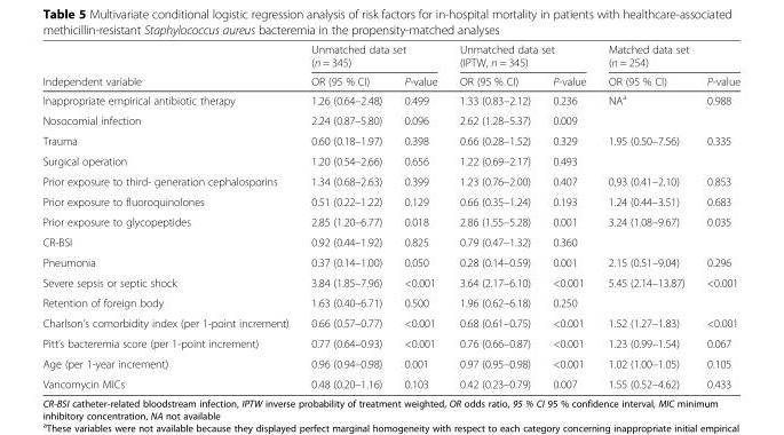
<table><thead><tr><td rowspan="2">Independent variable</td><td colspan="2">Unmatched data set (n = 345)</td><td colspan="2">Unmatched data set (IPTW, n = 345)</td><td colspan="2">Matched data set (n = 254)</td></tr><tr><td>OR (95 % CI)</td><td>P-value</td><td>OR (95 % CI)</td><td>P-value</td><td>OR (95 % CI)</td><td>P-value</td></tr></thead><tbody><tr><td>Inappropriate empirical antibiotic therapy</td><td>1.26 (0.64–2.48)</td><td>0.499</td><td>1.33 (0.83–2.12)</td><td>0.236</td><td>NA<sup>a</sup></td><td>0.988</td></tr><tr><td>Nosocomial infection</td><td>2.24 (0.87–5.80)</td><td>0.096</td><td>2.62 (1.28–5.37)</td><td>0.009</td><td></td><td></td></tr><tr><td>Trauma</td><td>0.60 (0.18–1.97)</td><td>0.398</td><td>0.66 (0.28–1.52)</td><td>0.329</td><td>1.95 (0.50–7.56)</td><td>0.335</td></tr><tr><td>Surgical operation</td><td>1.20 (0.54–2.66)</td><td>0.656</td><td>1.22 (0.69–2.17)</td><td>0.493</td><td></td><td></td></tr><tr><td>Prior exposure to third- generation cephalosporins</td><td>1.34 (0.68–2.63)</td><td>0.399</td><td>1.23 (0.76–2.00)</td><td>0.407</td><td>0.93 (0.41–2.10)</td><td>0.853</td></tr><tr><td>Prior exposure to fluoroquinolones</td><td>0.51 (0.22–1.22)</td><td>0.129</td><td>0.66 (0.35–1.24)</td><td>0.193</td><td>1.24 (0.44–3.51)</td><td>0.683</td></tr><tr><td>Prior exposure to glycopeptides</td><td>2.85 (1.20–6.77)</td><td>0.018</td><td>2.86 (1.55–5.28)</td><td>0.001</td><td>3.24 (1.08–9.67)</td><td>0.035</td></tr><tr><td>CR-BSI</td><td>0.92 (0.44–1.92)</td><td>0.825</td><td>0.79 (0.47–1.32)</td><td>0.360</td><td></td><td></td></tr><tr><td>Pneumonia</td><td>0.37 (0.14–1.00)</td><td>0.050</td><td>0.28 (0.14–0.59)</td><td>0.001</td><td>2.15 (0.51–9.04)</td><td>0.296</td></tr><tr><td>Severe sepsis or septic shock</td><td>3.84 (1.85–7.96)</td><td>&lt;0.001</td><td>3.64 (2.17–6.10)</td><td>&lt;0.001</td><td>5.45 (2.14–13.87)</td><td>&lt;0.001</td></tr><tr><td>Retention of foreign body</td><td>1.63 (0.40–6.71)</td><td>0.500</td><td>1.96 (0.62–6.18)</td><td>0.250</td><td></td><td></td></tr><tr><td>Charlson’s comorbidity index (per 1-point increment)</td><td>0.66 (0.57–0.77)</td><td>&lt;0.001</td><td>0.68 (0.61–0.75)</td><td>&lt;0.001</td><td>1.52 (1.27–1.83)</td><td>&lt;0.001</td></tr><tr><td>Pitt’s bacteremia score (per 1-point increment)</td><td>0.77 (0.64–0.93)</td><td>&lt;0.001</td><td>0.76 (0.66–0.87)</td><td>&lt;0.001</td><td>1.23 (0.99–1.54)</td><td>0.067</td></tr><tr><td>Age (per 1-year increment)</td><td>0.96 (0.94–0.98)</td><td>0.001</td><td>0.97 (0.95–0.98)</td><td>&lt;0.001</td><td>1.02 (1.00–1.05)</td><td>0.105</td></tr><tr><td>Vancomycin MICs</td><td>0.48 (0.20–1.16)</td><td>0.103</td><td>0.42 (0.23–0.79)</td><td>0.007</td><td>1.55 (0.52–4.62)</td><td>0.433</td></tr></tbody></table>